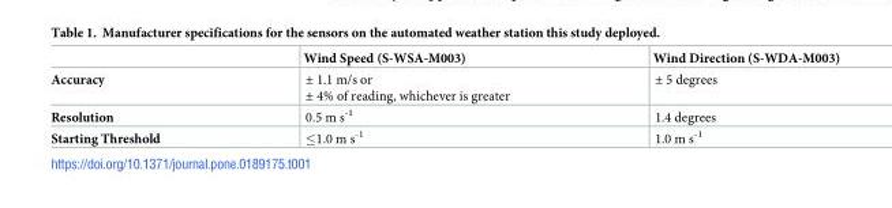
<table><thead><tr><td></td><td>Wind Speed (S-WSA-M003)</td><td>Wind Direction (S-WDA-M003)</td></tr></thead><tbody><tr><td>Accuracy</td><td>± 1.1 m/s or ± 4% of reading, whichever is greater</td><td>± 5 degrees</td></tr><tr><td>Resolution</td><td>0.5 m s<sup>-1</sup></td><td>1.4 degrees</td></tr><tr><td>Starting Threshold</td><td>≤1.0 m s<sup>-1</sup></td><td>1.0 m s<sup>-1</sup></td></tr></tbody></table>